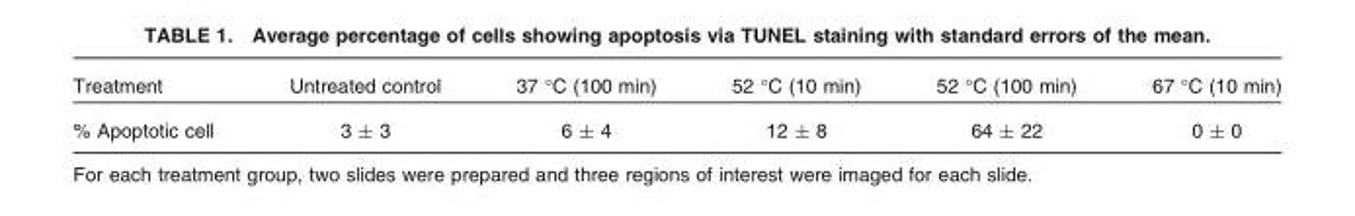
<table><thead><tr><td>Treatment</td><td>Untreated control</td><td>37 °C (100 min)</td><td>52 °C (10 min)</td><td>52 °C (100 min)</td><td>67 °C (10 min)</td></tr></thead><tbody><tr><td>% Apoptotic cell</td><td>3 ± 3</td><td>6 ± 4</td><td>12 ± 8</td><td>64 ± 22</td><td>0 ± 0</td></tr></tbody></table>